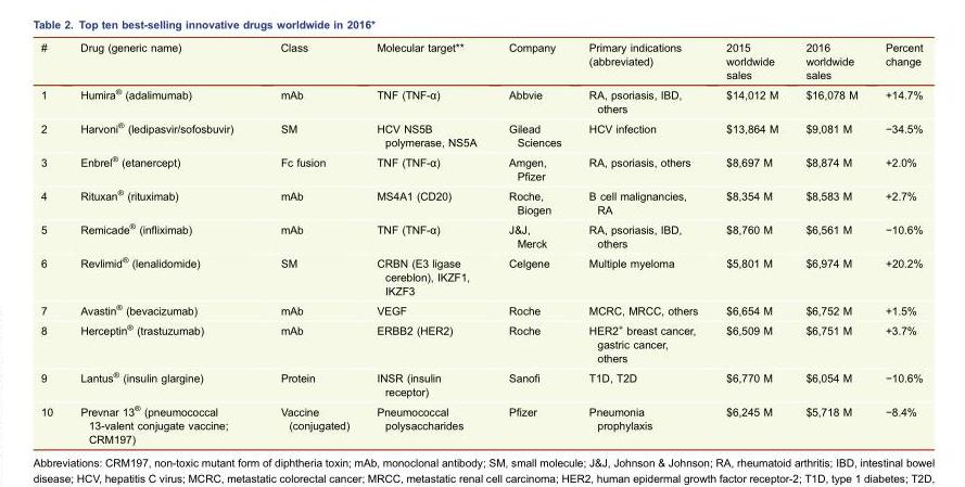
<table><thead><tr><td>#</td><td>Drug (generic name)</td><td>Class</td><td>Molecular target**</td><td>Company</td><td>Primary indications (abbreviated)</td><td>2015 worldwide sales</td><td>2016 worldwide sales</td><td>Percent change</td></tr></thead><tbody><tr><td>1</td><td>Humira<sup>®</sup> (adalimumab)</td><td>mAb</td><td>TNF (TNF-α)</td><td>Abbvie</td><td>RA, psoriasis, IBD, others</td><td>$14,012 M</td><td>$16,078 M</td><td>+14.7%</td></tr><tr><td>2</td><td>Harvoni<sup>®</sup> (ledipasvir/sofosbuvir)</td><td>SM</td><td>HCV NS5B polymerase, NS5A</td><td>Gilead Sciences</td><td>HCV infection</td><td>$13,864 M</td><td>$9,081 M</td><td>−34.5%</td></tr><tr><td>3</td><td>Enbrel<sup>®</sup> (etanercept)</td><td>Fc fusion</td><td>TNF (TNF-α)</td><td>Amgen, Pfizer</td><td>RA, psoriasis, others</td><td>$8,697 M</td><td>$8,874 M</td><td>+2.0%</td></tr><tr><td>4</td><td>Rituxan<sup>®</sup> (rituximab)</td><td>mAb</td><td>MS4A1 (CD20)</td><td>Roche, Biogen</td><td>B cell malignancies, RA</td><td>$8,354 M</td><td>$8,583 M</td><td>+2.7%</td></tr><tr><td>5</td><td>Remicade<sup>®</sup> (infliximab)</td><td>mAb</td><td>TNF (TNF-α)</td><td>J&amp;J, Merck</td><td>RA, psoriasis, IBD, others</td><td>$8,760 M</td><td>$6,561 M</td><td>−10.6%</td></tr><tr><td>6</td><td>Revlimid<sup>®</sup> (lenalidomide)</td><td>SM</td><td>CRBN (E3 ligase cereblon), IKZF1, IKZF3</td><td>Celgene</td><td>Multiple myeloma</td><td>$5,801 M</td><td>$6,974 M</td><td>+20.2%</td></tr><tr><td>7</td><td>Avastin<sup>®</sup> (bevacizumab)</td><td>mAb</td><td>VEGF</td><td>Roche</td><td>MCRC, MRCC, others</td><td>$6,654 M</td><td>$6,752 M</td><td>+1.5%</td></tr><tr><td>8</td><td>Herceptin<sup>®</sup> (trastuzumab)</td><td>mAb</td><td>ERBB2 (HER2)</td><td>Roche</td><td>HER2<sup>+</sup> breast cancer, gastric cancer, others</td><td>$6,509 M</td><td>$6,751 M</td><td>+3.7%</td></tr><tr><td>9</td><td>Lantus<sup>®</sup> (insulin glargine)</td><td>Protein</td><td>INSR (insulin receptor)</td><td>Sanofi</td><td>T1D, T2D</td><td>$6,770 M</td><td>$6,054 M</td><td>−10.6%</td></tr><tr><td>10</td><td>Prevnar 13<sup>®</sup> (pneumococcal 13-valent conjugate vaccine; CRM197)</td><td>Vaccine (conjugated)</td><td>Pneumococcal polysaccharides</td><td>Pfizer</td><td>Pneumonia prophylaxis</td><td>$6,245 M</td><td>$5,718 M</td><td>−8.4%</td></tr></tbody></table>